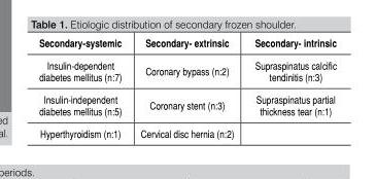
<table><thead><tr><td>Secondary-systemic</td><td>Secondary- extrinsic</td><td>Secondary- intrinsic</td></tr></thead><tbody><tr><td>Insulin-dependent diabetes mellitus (n:7)</td><td>Coronary bypass (n:2)</td><td>Supraspinatus calcific tendinitis (n:3)</td></tr><tr><td>Insulin-independent diabetes mellitus (n:5)</td><td>Coronary stent (n:3)</td><td>Supraspinatus partial thickness tear (n:1)</td></tr><tr><td>Hyperthyroidism (n:1)</td><td>Cervical disc hernia (n:2)</td><td></td></tr></tbody></table>